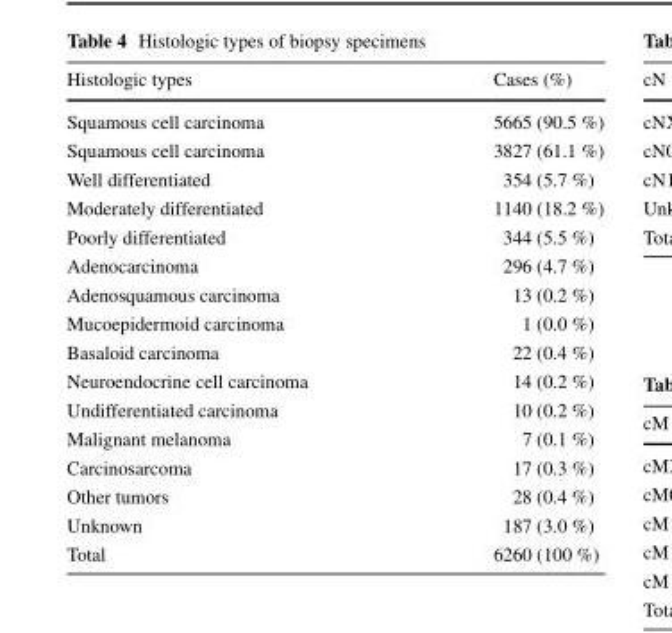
<table><thead><tr><td>Histologic types</td><td>Cases (%)</td></tr></thead><tbody><tr><td>Squamous cell carcinoma</td><td>5665 (90.5 %)</td></tr><tr><td>Squamous cell carcinoma</td><td>3827 (61.1 %)</td></tr><tr><td>Well differentiated</td><td>354 (5.7 %)</td></tr><tr><td>Moderately differentiated</td><td>1140 (18.2 %)</td></tr><tr><td>Poorly differentiated</td><td>344 (5.5 %)</td></tr><tr><td>Adenocarcinoma</td><td>296 (4.7 %)</td></tr><tr><td>Adenosquamous carcinoma</td><td>13 (0.2 %)</td></tr><tr><td>Mucoepidermoid carcinoma</td><td>1 (0.0 %)</td></tr><tr><td>Basaloid carcinoma</td><td>22 (0.4 %)</td></tr><tr><td>Neuroendocrine cell carcinoma</td><td>14 (0.2 %)</td></tr><tr><td>Undifferentiated carcinoma</td><td>10 (0.2 %)</td></tr><tr><td>Malignant melanoma</td><td>7 (0.1 %)</td></tr><tr><td>Carcinosarcoma</td><td>17 (0.3 %)</td></tr><tr><td>Other tumors</td><td>28 (0.4 %)</td></tr><tr><td>Unknown</td><td>187 (3.0 %)</td></tr><tr><td>Total</td><td>6260 (100 %)</td></tr></tbody></table>